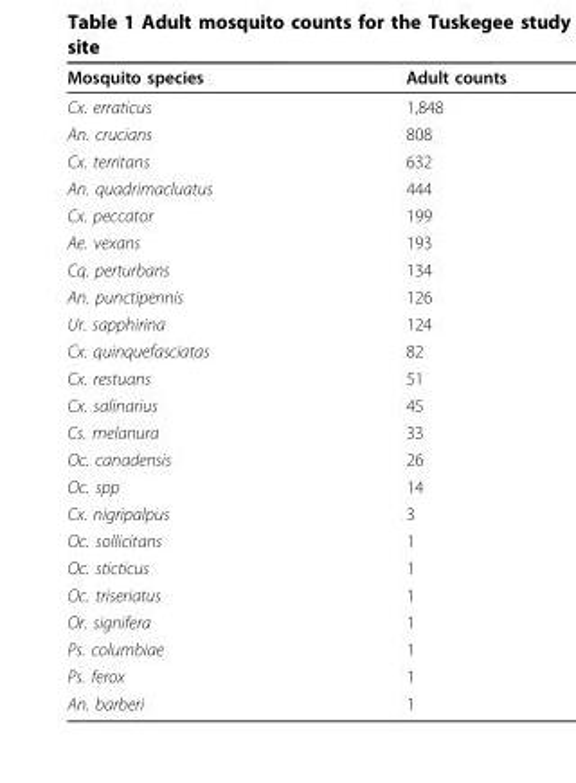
<table><thead><tr><td>Mosquito species</td><td>Adult counts</td></tr></thead><tbody><tr><td>Cx. erraticus</td><td>1,848</td></tr><tr><td>An. crucians</td><td>808</td></tr><tr><td>Cx. territans</td><td>632</td></tr><tr><td>An. quadrimacluatus</td><td>444</td></tr><tr><td>Cx. peccator</td><td>199</td></tr><tr><td>Ae. vexans</td><td>193</td></tr><tr><td>Cq. perturbans</td><td>134</td></tr><tr><td>An. punctipennis</td><td>126</td></tr><tr><td>Ur. sapphirina</td><td>124</td></tr><tr><td>Cx. quinquefasciatas</td><td>82</td></tr><tr><td>Cx. restuans</td><td>51</td></tr><tr><td>Cx. salinarius</td><td>45</td></tr><tr><td>Cs. melanura</td><td>33</td></tr><tr><td>Oc. canadensis</td><td>26</td></tr><tr><td>Oc. spp</td><td>14</td></tr><tr><td>Cx. nigripalpus</td><td>3</td></tr><tr><td>Oc. sollicitans</td><td>1</td></tr><tr><td>Oc. sticticus</td><td>1</td></tr><tr><td>Oc. triseriatus</td><td>1</td></tr><tr><td>Or. signifera</td><td>1</td></tr><tr><td>Ps. columbiae</td><td>1</td></tr><tr><td>Ps. ferox</td><td>1</td></tr><tr><td>An. barberi</td><td>1</td></tr></tbody></table>